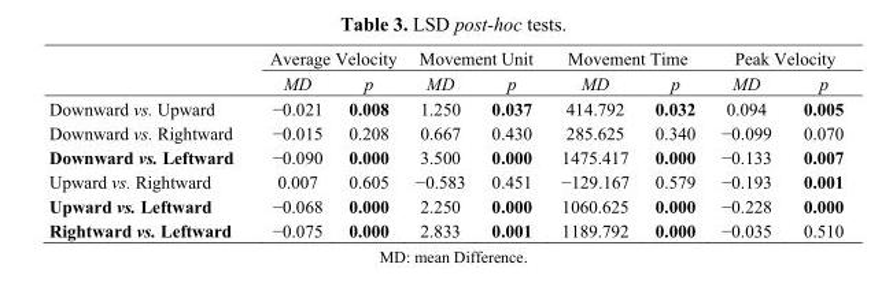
<table><thead><tr><td rowspan="2"></td><td colspan="2">Average Velocity</td><td colspan="2">Movement Unit</td><td colspan="2">Movement Time</td><td colspan="2">Peak Velocity</td></tr><tr><td>MD</td><td>p</td><td>MD</td><td>p</td><td>MD</td><td>p</td><td>MD</td><td>p</td></tr></thead><tbody><tr><td>Downward vs. Upward</td><td>−0.021</td><td>0.008</td><td>1.250</td><td>0.037</td><td>414.792</td><td>0.032</td><td>0.094</td><td>0.005</td></tr><tr><td>Downward vs. Rightward</td><td>−0.015</td><td>0.208</td><td>0.667</td><td>0.430</td><td>285.625</td><td>0.340</td><td>−0.099</td><td>0.070</td></tr><tr><td>Downward vs. Leftward</td><td>−0.090</td><td>0.000</td><td>3.500</td><td>0.000</td><td>1475.417</td><td>0.000</td><td>−0.133</td><td>0.007</td></tr><tr><td>Upward vs. Rightward</td><td>0.007</td><td>0.605</td><td>−0.583</td><td>0.451</td><td>−129.167</td><td>0.579</td><td>−0.193</td><td>0.001</td></tr><tr><td>Upward vs. Leftward</td><td>−0.068</td><td>0.000</td><td>2.250</td><td>0.000</td><td>1060.625</td><td>0.000</td><td>−0.228</td><td>0.000</td></tr><tr><td>Rightward vs. Leftward</td><td>−0.075</td><td>0.000</td><td>2.833</td><td>0.001</td><td>1189.792</td><td>0.000</td><td>−0.035</td><td>0.510</td></tr></tbody></table>